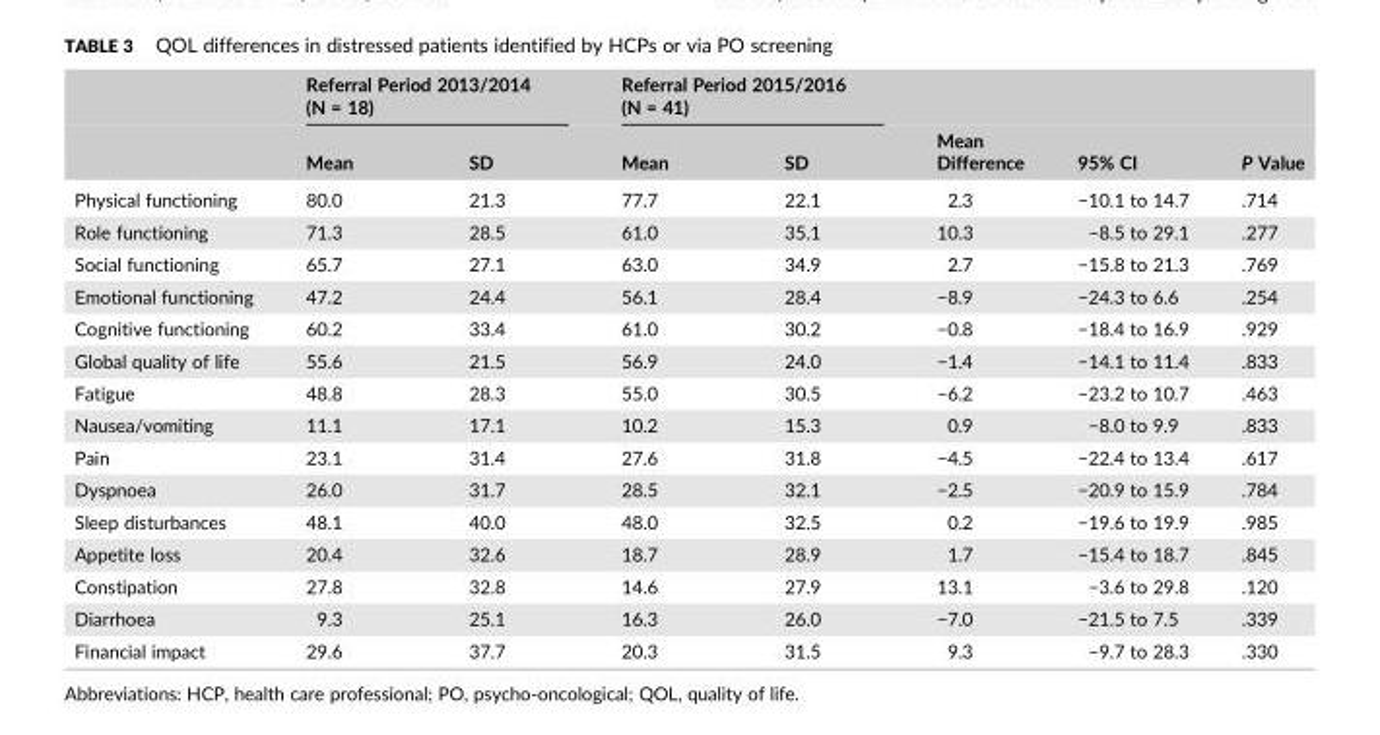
<table><thead><tr><td rowspan="2"></td><td colspan="2">Referral Period 2013/2014 (N = 18)</td><td colspan="2">Referral Period 2015/2016 (N = 41)</td><td rowspan="2">Mean Difference</td><td rowspan="2">95% CI</td><td rowspan="2">P Value</td></tr><tr><td>Mean</td><td>SD</td><td>Mean</td><td>SD</td></tr></thead><tbody><tr><td>Physical functioning</td><td>80.0</td><td>21.3</td><td>77.7</td><td>22.1</td><td>2.3</td><td>−10.1 to 14.7</td><td>.714</td></tr><tr><td>Role functioning</td><td>71.3</td><td>28.5</td><td>61.0</td><td>35.1</td><td>10.3</td><td>−8.5 to 29.1</td><td>.277</td></tr><tr><td>Social functioning</td><td>65.7</td><td>27.1</td><td>63.0</td><td>34.9</td><td>2.7</td><td>−15.8 to 21.3</td><td>.769</td></tr><tr><td>Emotional functioning</td><td>47.2</td><td>24.4</td><td>56.1</td><td>28.4</td><td>−8.9</td><td>−24.3 to 6.6</td><td>.254</td></tr><tr><td>Cognitive functioning</td><td>60.2</td><td>33.4</td><td>61.0</td><td>30.2</td><td>−0.8</td><td>−18.4 to 16.9</td><td>.929</td></tr><tr><td>Global quality of life</td><td>55.6</td><td>21.5</td><td>56.9</td><td>24.0</td><td>−1.4</td><td>−14.1 to 11.4</td><td>.833</td></tr><tr><td>Fatigue</td><td>48.8</td><td>28.3</td><td>55.0</td><td>30.5</td><td>−6.2</td><td>−23.2 to 10.7</td><td>.463</td></tr><tr><td>Nausea/vomiting</td><td>11.1</td><td>17.1</td><td>10.2</td><td>15.3</td><td>0.9</td><td>−8.0 to 9.9</td><td>.833</td></tr><tr><td>Pain</td><td>23.1</td><td>31.4</td><td>27.6</td><td>31.8</td><td>−4.5</td><td>−22.4 to 13.4</td><td>.617</td></tr><tr><td>Dyspnoea</td><td>26.0</td><td>31.7</td><td>28.5</td><td>32.1</td><td>−2.5</td><td>−20.9 to 15.9</td><td>.784</td></tr><tr><td>Sleep disturbances</td><td>48.1</td><td>40.0</td><td>48.0</td><td>32.5</td><td>0.2</td><td>−19.6 to 19.9</td><td>.985</td></tr><tr><td>Appetite loss</td><td>20.4</td><td>32.6</td><td>18.7</td><td>28.9</td><td>1.7</td><td>−15.4 to 18.7</td><td>.845</td></tr><tr><td>Constipation</td><td>27.8</td><td>32.8</td><td>14.6</td><td>27.9</td><td>13.1</td><td>−3.6 to 29.8</td><td>.120</td></tr><tr><td>Diarrhoea</td><td>9.3</td><td>25.1</td><td>16.3</td><td>26.0</td><td>−7.0</td><td>−21.5 to 7.5</td><td>.339</td></tr><tr><td>Financial impact</td><td>29.6</td><td>37.7</td><td>20.3</td><td>31.5</td><td>9.3</td><td>−9.7 to 28.3</td><td>.330</td></tr></tbody></table>